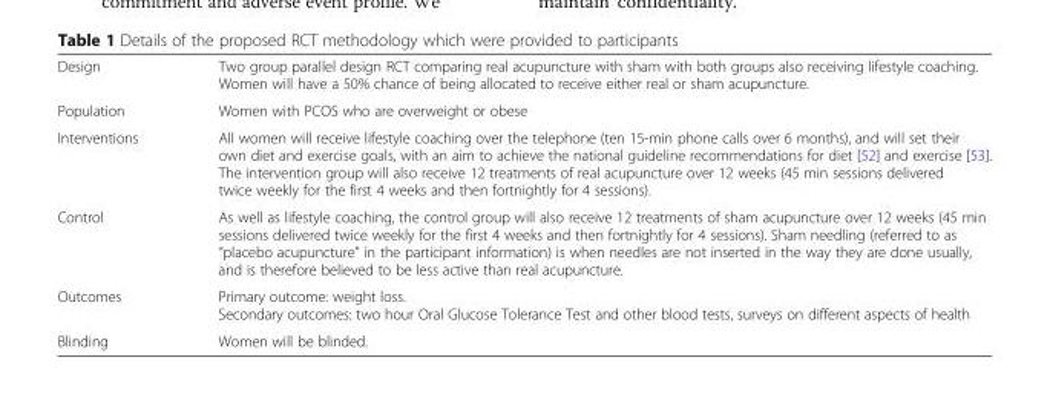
<table><tbody><tr><td>Design</td><td>Two group parallel design RCT comparing real acupuncture with sham with both groups also receiving lifestyle coaching. Women will have a 50% chance of being allocated to receive either real or sham acupuncture.</td></tr><tr><td>Population</td><td>Women with PCOS who are overweight or obese</td></tr><tr><td>Interventions</td><td>All women will receive lifestyle coaching over the telephone (ten 15-min phone calls over 6 months), and will set their own diet and exercise goals, with an aim to achieve the national guideline recommendations for diet [52] and exercise [53]. The intervention group will also receive 12 treatments of real acupuncture over 12 weeks (45 min sessions delivered twice weekly for the first 4 weeks and then fortnightly for 4 sessions).</td></tr><tr><td>Control</td><td>As well as lifestyle coaching, the control group will also receive 12 treatments of sham acupuncture over 12 weeks (45 min sessions delivered twice weekly for the first 4 weeks and then fortnightly for 4 sessions). Sham needling (referred to as “placebo acupuncture” in the participant information) is when needles are not inserted in the way they are done usually, and is therefore believed to be less active than real acupuncture.</td></tr><tr><td>Outcomes</td><td>Primary outcome: weight loss. Secondary outcomes: two hour Oral Glucose Tolerance Test and other blood tests, surveys on different aspects of health</td></tr><tr><td>Blinding</td><td>Women will be blinded.</td></tr></tbody></table>